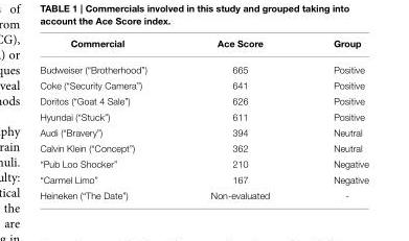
<table><thead><tr><td>Commercial</td><td>Ace Score</td><td>Group</td></tr></thead><tbody><tr><td>Budweiser (“Brotherhood”)</td><td>665</td><td>Positive</td></tr><tr><td>Coke (“Security Camera”)</td><td>641</td><td>Positive</td></tr><tr><td>Doritos (“Goat 4 Sale”)</td><td>626</td><td>Positive</td></tr><tr><td>Hyundai (“Stuck”)</td><td>611</td><td>Positive</td></tr><tr><td>Audi (“Bravery”)</td><td>394</td><td>Neutral</td></tr><tr><td>Calvin Klein (“Concept”)</td><td>362</td><td>Neutral</td></tr><tr><td>“Pub Loo Shocker”</td><td>210</td><td>Negative</td></tr><tr><td>“Carmel Limo”</td><td>167</td><td>Negative</td></tr><tr><td>Heineken (“The Date”)</td><td>Non-evaluated</td><td>-</td></tr></tbody></table>